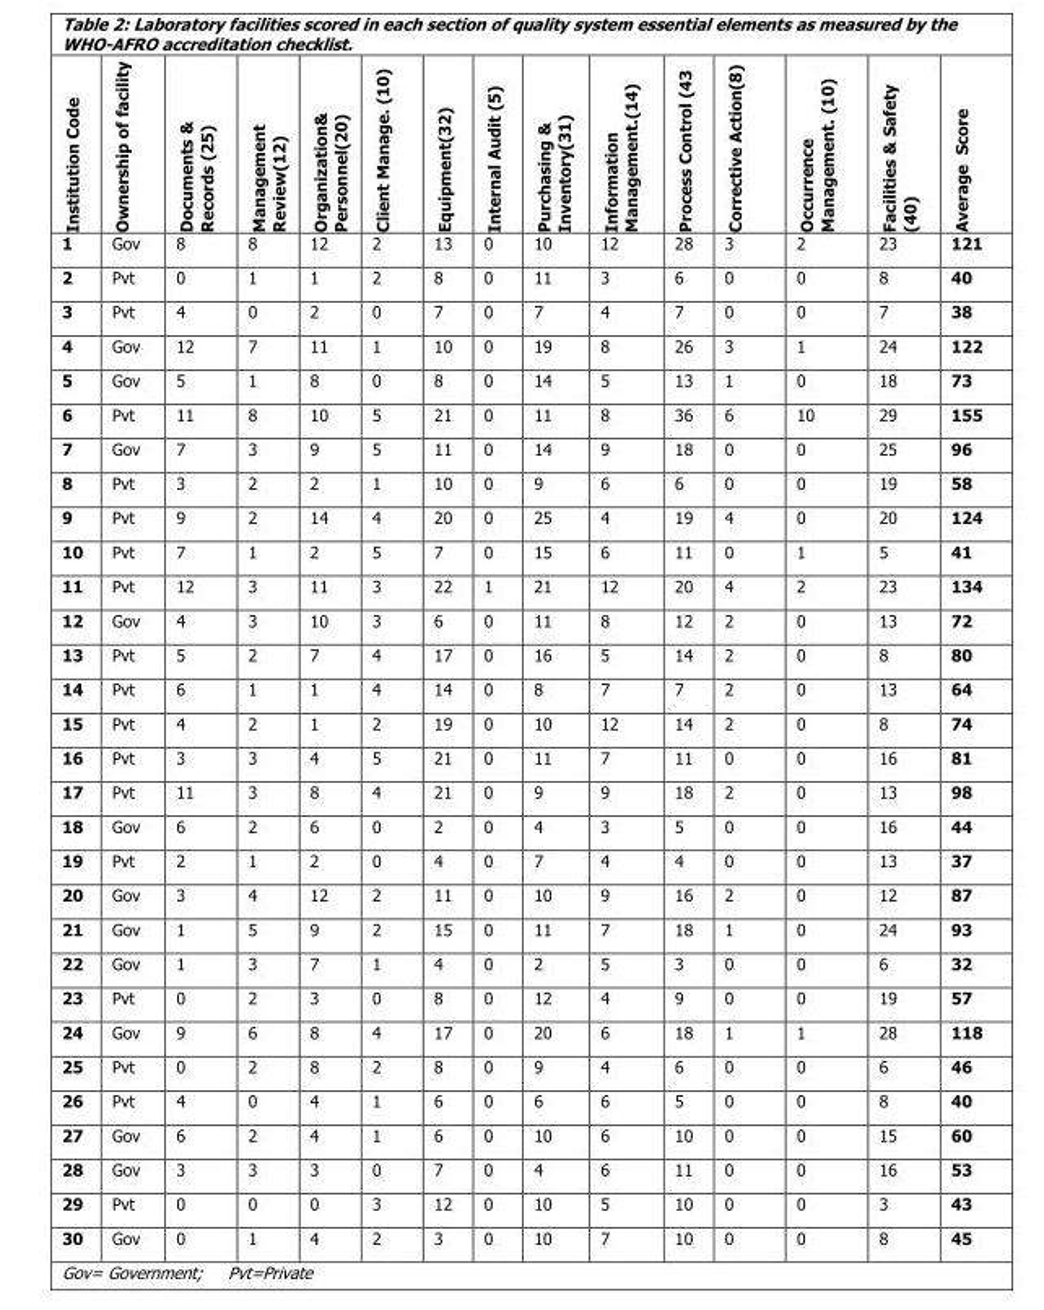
<table><thead><tr><td>Institution Code</td><td>Ownership of facility</td><td>Documents &amp; Records (25)</td><td>Management Review(12)</td><td>Organization&amp; Personnel(20)</td><td>Client Manage. (10)</td><td>Equipment(32)</td><td>Internal Audit (5)</td><td>Purchasing &amp; Inventory(31)</td><td>Information Management.(14)</td><td>Process Control (43</td><td>Corrective Action(8)</td><td>Occurrence Management. (10)</td><td>Facilities &amp; Safety (40)</td><td>Average Score</td></tr></thead><tbody><tr><td>1</td><td>Gov</td><td>8</td><td>8</td><td>12</td><td>2</td><td>13</td><td>0</td><td>10</td><td>12</td><td>28</td><td>3</td><td>2</td><td>23</td><td>121</td></tr><tr><td>2</td><td>Pvt</td><td>0</td><td>1</td><td>1</td><td>2</td><td>8</td><td>0</td><td>11</td><td>3</td><td>6</td><td>0</td><td>0</td><td>8</td><td>40</td></tr><tr><td>3</td><td>Pvt</td><td>4</td><td>0</td><td>2</td><td>0</td><td>7</td><td>0</td><td>7</td><td>4</td><td>7</td><td>0</td><td>0</td><td>7</td><td>38</td></tr><tr><td>4</td><td>Gov</td><td>12</td><td>7</td><td>11</td><td>1</td><td>10</td><td>0</td><td>19</td><td>8</td><td>26</td><td>3</td><td>1</td><td>24</td><td>122</td></tr><tr><td>5</td><td>Gov</td><td>5</td><td>1</td><td>8</td><td>0</td><td>8</td><td>0</td><td>14</td><td>5</td><td>13</td><td>1</td><td>0</td><td>18</td><td>73</td></tr><tr><td>6</td><td>Pvt</td><td>11</td><td>8</td><td>10</td><td>5</td><td>21</td><td>0</td><td>11</td><td>8</td><td>36</td><td>6</td><td>10</td><td>29</td><td>155</td></tr><tr><td>7</td><td>Gov</td><td>7</td><td>3</td><td>9</td><td>5</td><td>11</td><td>0</td><td>14</td><td>9</td><td>18</td><td>0</td><td>0</td><td>25</td><td>96</td></tr><tr><td>8</td><td>Pvt</td><td>3</td><td>2</td><td>2</td><td>1</td><td>10</td><td>0</td><td>9</td><td>6</td><td>6</td><td>0</td><td>0</td><td>19</td><td>58</td></tr><tr><td>9</td><td>Pvt</td><td>9</td><td>2</td><td>14</td><td>4</td><td>20</td><td>0</td><td>25</td><td>4</td><td>19</td><td>4</td><td>0</td><td>20</td><td>124</td></tr><tr><td>10</td><td>Pvt</td><td>7</td><td>1</td><td>2</td><td>5</td><td>7</td><td>0</td><td>15</td><td>6</td><td>11</td><td>0</td><td>1</td><td>5</td><td>41</td></tr><tr><td>11</td><td>Pvt</td><td>12</td><td>3</td><td>11</td><td>3</td><td>22</td><td>1</td><td>21</td><td>12</td><td>20</td><td>4</td><td>2</td><td>23</td><td>134</td></tr><tr><td>12</td><td>Gov</td><td>4</td><td>3</td><td>10</td><td>3</td><td>6</td><td>0</td><td>11</td><td>8</td><td>12</td><td>2</td><td>0</td><td>13</td><td>72</td></tr><tr><td>13</td><td>Pvt</td><td>5</td><td>2</td><td>7</td><td>4</td><td>17</td><td>0</td><td>16</td><td>5</td><td>14</td><td>2</td><td>0</td><td>8</td><td>80</td></tr><tr><td>14</td><td>Pvt</td><td>6</td><td>1</td><td>1</td><td>4</td><td>14</td><td>0</td><td>8</td><td>7</td><td>7</td><td>2</td><td>0</td><td>13</td><td>64</td></tr><tr><td>15</td><td>Pvt</td><td>4</td><td>2</td><td>1</td><td>2</td><td>19</td><td>0</td><td>10</td><td>12</td><td>14</td><td>2</td><td>0</td><td>8</td><td>74</td></tr><tr><td>16</td><td>Pvt</td><td>3</td><td>3</td><td>4</td><td>5</td><td>21</td><td>0</td><td>11</td><td>7</td><td>11</td><td>0</td><td>0</td><td>16</td><td>81</td></tr><tr><td>17</td><td>Pvt</td><td>11</td><td>3</td><td>8</td><td>4</td><td>21</td><td>0</td><td>9</td><td>9</td><td>18</td><td>2</td><td>0</td><td>13</td><td>98</td></tr><tr><td>18</td><td>Gov</td><td>6</td><td>2</td><td>6</td><td>0</td><td>2</td><td>0</td><td>4</td><td>3</td><td>5</td><td>0</td><td>0</td><td>16</td><td>44</td></tr><tr><td>19</td><td>Pvt</td><td>2</td><td>1</td><td>2</td><td>0</td><td>4</td><td>0</td><td>7</td><td>4</td><td>4</td><td>0</td><td>0</td><td>13</td><td>37</td></tr><tr><td>20</td><td>Gov</td><td>3</td><td>4</td><td>12</td><td>2</td><td>11</td><td>0</td><td>10</td><td>9</td><td>16</td><td>2</td><td>0</td><td>12</td><td>87</td></tr><tr><td>21</td><td>Gov</td><td>1</td><td>5</td><td>9</td><td>2</td><td>15</td><td>0</td><td>11</td><td>7</td><td>18</td><td>1</td><td>0</td><td>24</td><td>93</td></tr><tr><td>22</td><td>Gov</td><td>1</td><td>3</td><td>7</td><td>1</td><td>4</td><td>0</td><td>2</td><td>5</td><td>3</td><td>0</td><td>0</td><td>6</td><td>32</td></tr><tr><td>23</td><td>Pvt</td><td>0</td><td>2</td><td>3</td><td>0</td><td>8</td><td>0</td><td>12</td><td>4</td><td>9</td><td>0</td><td>0</td><td>19</td><td>57</td></tr><tr><td>24</td><td>Gov</td><td>9</td><td>6</td><td>8</td><td>4</td><td>17</td><td>0</td><td>20</td><td>6</td><td>18</td><td>1</td><td>1</td><td>28</td><td>118</td></tr><tr><td>25</td><td>Pvt</td><td>0</td><td>2</td><td>8</td><td>2</td><td>8</td><td>0</td><td>9</td><td>4</td><td>6</td><td>0</td><td>0</td><td>6</td><td>46</td></tr><tr><td>26</td><td>Pvt</td><td>4</td><td>0</td><td>4</td><td>1</td><td>6</td><td>0</td><td>6</td><td>6</td><td>5</td><td>0</td><td>0</td><td>8</td><td>40</td></tr><tr><td>27</td><td>Gov</td><td>6</td><td>2</td><td>4</td><td>1</td><td>6</td><td>0</td><td>10</td><td>6</td><td>10</td><td>0</td><td>0</td><td>15</td><td>60</td></tr><tr><td>28</td><td>Gov</td><td>3</td><td>3</td><td>3</td><td>0</td><td>7</td><td>0</td><td>4</td><td>6</td><td>11</td><td>0</td><td>0</td><td>16</td><td>53</td></tr><tr><td>29</td><td>Pvt</td><td>0</td><td>0</td><td>0</td><td>3</td><td>12</td><td>0</td><td>10</td><td>5</td><td>10</td><td>0</td><td>0</td><td>3</td><td>43</td></tr><tr><td>30</td><td>Gov</td><td>0</td><td>1</td><td>4</td><td>2</td><td>3</td><td>0</td><td>10</td><td>7</td><td>10</td><td>0</td><td>0</td><td>8</td><td>45</td></tr></tbody></table>